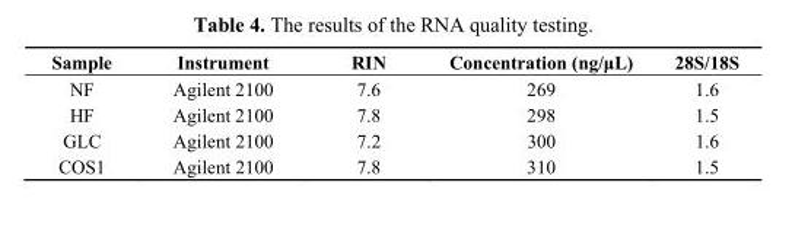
<table><thead><tr><td>Sample</td><td>Instrument</td><td>RIN</td><td>Concentration (ng/μL)</td><td>28S/18S</td></tr></thead><tbody><tr><td>NF</td><td>Agilent 2100</td><td>7.6</td><td>269</td><td>1.6</td></tr><tr><td>HF</td><td>Agilent 2100</td><td>7.8</td><td>298</td><td>1.5</td></tr><tr><td>GLC</td><td>Agilent 2100</td><td>7.2</td><td>300</td><td>1.6</td></tr><tr><td>COS1</td><td>Agilent 2100</td><td>7.8</td><td>310</td><td>1.5</td></tr></tbody></table>